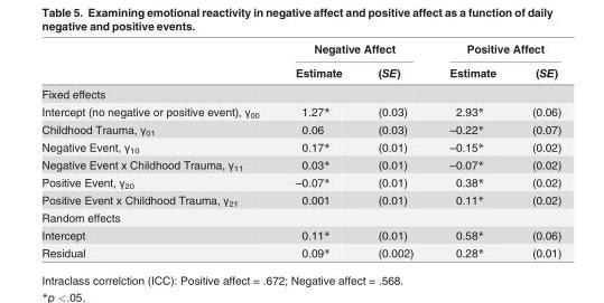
<table><thead><tr><td rowspan="2"></td><td colspan="2">Negative Affect</td><td colspan="2">Positive Affect</td></tr><tr><td>Estimate</td><td>(SE)</td><td>Estimate</td><td>(SE)</td></tr></thead><tbody><tr><td colspan="5">Fixed effects</td></tr><tr><td>Intercept (no negative or positive event), γ<sub>00</sub></td><td>1.27*</td><td>(0.03)</td><td>2.93*</td><td>(0.06)</td></tr><tr><td>Childhood Trauma, γ<sub>01</sub></td><td>0.06</td><td>(0.03)</td><td>–0.22*</td><td>(0.07)</td></tr><tr><td>Negative Event, γ<sub>10</sub></td><td>0.17*</td><td>(0.01)</td><td>–0.15*</td><td>(0.02)</td></tr><tr><td>Negative Event x Childhood Trauma, γ<sub>11</sub></td><td>0.03*</td><td>(0.01)</td><td>–0.07*</td><td>(0.02)</td></tr><tr><td>Positive Event, γ<sub>20</sub></td><td>–0.07*</td><td>(0.01)</td><td>0.38*</td><td>(0.02)</td></tr><tr><td>Positive Event x Childhood Trauma, γ<sub>21</sub></td><td>0.001</td><td>(0.01)</td><td>0.11*</td><td>(0.02)</td></tr><tr><td colspan="5">Random effects</td></tr><tr><td>Intercept</td><td>0.11*</td><td>(0.01)</td><td>0.58*</td><td>(0.06)</td></tr><tr><td>Residual</td><td>0.09*</td><td>(0.002)</td><td>0.28*</td><td>(0.01)</td></tr></tbody></table>